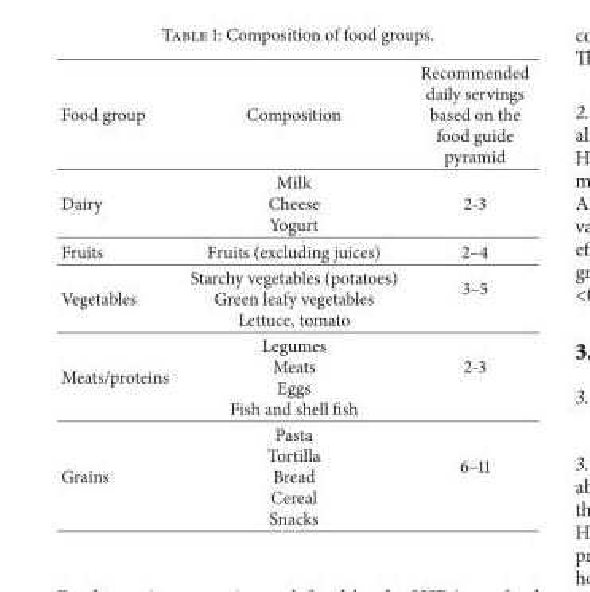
<table><thead><tr><td>Food group</td><td>Composition</td><td>Recommended daily servings based on the food guide pyramid</td></tr></thead><tbody><tr><td>Dairy</td><td>Milk Cheese Yogurt</td><td>2-3</td></tr><tr><td>Fruits</td><td>Fruits (excluding juices)</td><td>2–4</td></tr><tr><td>Vegetables</td><td>Starchy vegetables (potatoes) Green leafy vegetables Lettuce, tomato</td><td>3–5</td></tr><tr><td>Meats/proteins</td><td>Legumes Meats Eggs Fish and shell fish</td><td>2-3</td></tr><tr><td>Grains</td><td>Pasta Tortilla Bread Cereal Snacks</td><td>6–11</td></tr></tbody></table>